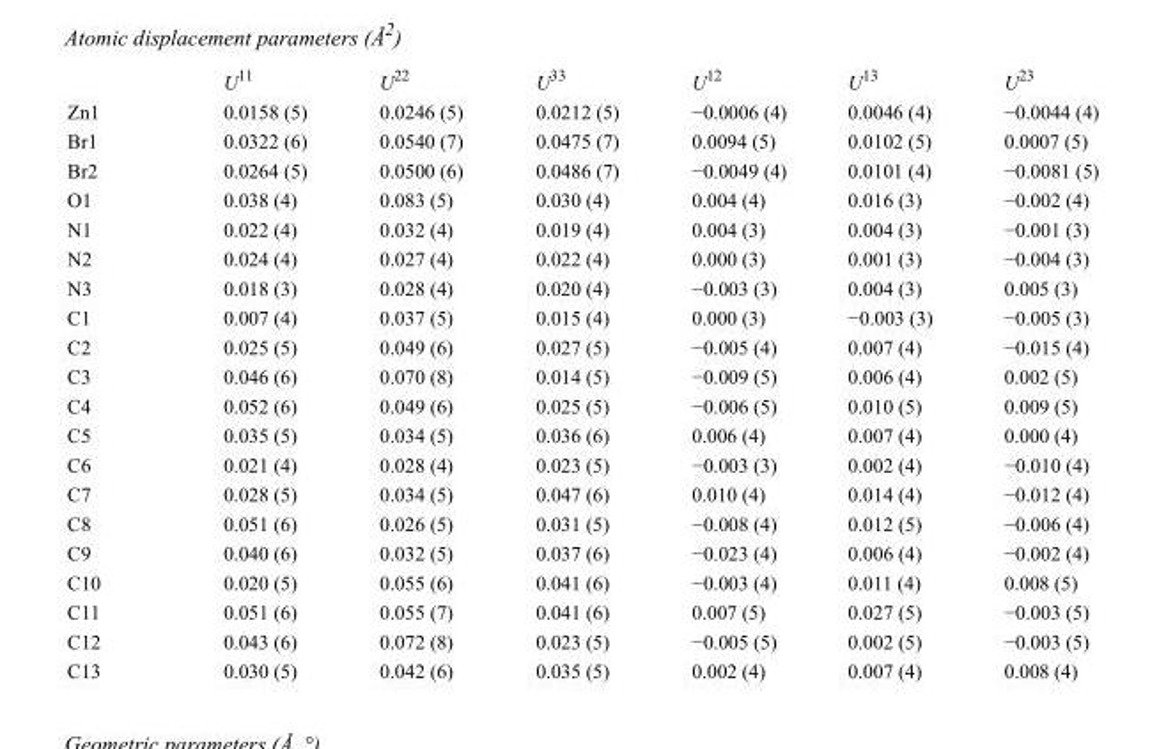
<table><thead><tr><td></td><td>U<sup>11</sup></td><td>U<sup>22</sup></td><td>U<sup>33</sup></td><td>U<sup>12</sup></td><td>U<sup>13</sup></td><td>U<sup>23</sup></td></tr></thead><tbody><tr><td>Zn1</td><td>0.0158 (5)</td><td>0.0246 (5)</td><td>0.0212 (5)</td><td>−0.0006 (4)</td><td>0.0046 (4)</td><td>−0.0044 (4)</td></tr><tr><td>Br1</td><td>0.0322 (6)</td><td>0.0540 (7)</td><td>0.0475 (7)</td><td>0.0094 (5)</td><td>0.0102 (5)</td><td>0.0007 (5)</td></tr><tr><td>Br2</td><td>0.0264 (5)</td><td>0.0500 (6)</td><td>0.0486 (7)</td><td>−0.0049 (4)</td><td>0.0101 (4)</td><td>−0.0081 (5)</td></tr><tr><td>O1</td><td>0.038 (4)</td><td>0.083 (5)</td><td>0.030 (4)</td><td>0.004 (4)</td><td>0.016 (3)</td><td>−0.002 (4)</td></tr><tr><td>N1</td><td>0.022 (4)</td><td>0.032 (4)</td><td>0.019 (4)</td><td>0.004 (3)</td><td>0.004 (3)</td><td>−0.001 (3)</td></tr><tr><td>N2</td><td>0.024 (4)</td><td>0.027 (4)</td><td>0.022 (4)</td><td>0.000 (3)</td><td>0.001 (3)</td><td>−0.004 (3)</td></tr><tr><td>N3</td><td>0.018 (3)</td><td>0.028 (4)</td><td>0.020 (4)</td><td>−0.003 (3)</td><td>0.004 (3)</td><td>0.005 (3)</td></tr><tr><td>C1</td><td>0.007 (4)</td><td>0.037 (5)</td><td>0.015 (4)</td><td>0.000 (3)</td><td>−0.003 (3)</td><td>−0.005 (3)</td></tr><tr><td>C2</td><td>0.025 (5)</td><td>0.049 (6)</td><td>0.027 (5)</td><td>−0.005 (4)</td><td>0.007 (4)</td><td>−0.015 (4)</td></tr><tr><td>C3</td><td>0.046 (6)</td><td>0.070 (8)</td><td>0.014 (5)</td><td>−0.009 (5)</td><td>0.006 (4)</td><td>0.002 (5)</td></tr><tr><td>C4</td><td>0.052 (6)</td><td>0.049 (6)</td><td>0.025 (5)</td><td>−0.006 (5)</td><td>0.010 (5)</td><td>0.009 (5)</td></tr><tr><td>C5</td><td>0.035 (5)</td><td>0.034 (5)</td><td>0.036 (6)</td><td>0.006 (4)</td><td>0.007 (4)</td><td>0.000 (4)</td></tr><tr><td>C6</td><td>0.021 (4)</td><td>0.028 (4)</td><td>0.023 (5)</td><td>−0.003 (3)</td><td>0.002 (4)</td><td>−0.010 (4)</td></tr><tr><td>C7</td><td>0.028 (5)</td><td>0.034 (5)</td><td>0.047 (6)</td><td>0.010 (4)</td><td>0.014 (4)</td><td>−0.012 (4)</td></tr><tr><td>C8</td><td>0.051 (6)</td><td>0.026 (5)</td><td>0.031 (5)</td><td>−0.008 (4)</td><td>0.012 (5)</td><td>−0.006 (4)</td></tr><tr><td>C9</td><td>0.040 (6)</td><td>0.032 (5)</td><td>0.037 (6)</td><td>−0.023 (4)</td><td>0.006 (4)</td><td>−0.002 (4)</td></tr><tr><td>C10</td><td>0.020 (5)</td><td>0.055 (6)</td><td>0.041 (6)</td><td>−0.003 (4)</td><td>0.011 (4)</td><td>0.008 (5)</td></tr><tr><td>C11</td><td>0.051 (6)</td><td>0.055 (7)</td><td>0.041 (6)</td><td>0.007 (5)</td><td>0.027 (5)</td><td>−0.003 (5)</td></tr><tr><td>C12</td><td>0.043 (6)</td><td>0.072 (8)</td><td>0.023 (5)</td><td>−0.005 (5)</td><td>0.002 (5)</td><td>−0.003 (5)</td></tr><tr><td>C13</td><td>0.030 (5)</td><td>0.042 (6)</td><td>0.035 (5)</td><td>0.002 (4)</td><td>0.007 (4)</td><td>0.008 (4)</td></tr></tbody></table>